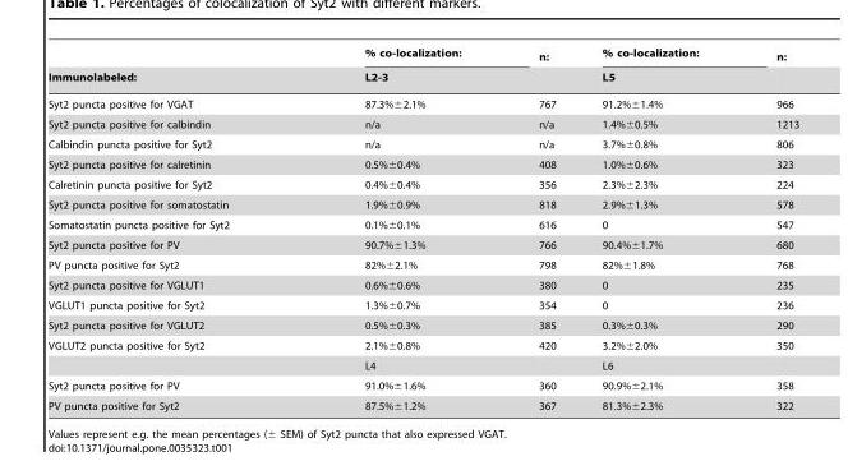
<table><thead><tr><td rowspan="2">Immunolabeled:</td><td rowspan="2">% co-localization: L2-3</td><td rowspan="2">n:</td><td rowspan="2">% co-localization: L5</td><td rowspan="2">n:</td></tr><tr></tr></thead><tbody><tr><td>Syt2 puncta positive for VGAT</td><td>87.3%±2.1%</td><td>767</td><td>91.2%±1.4%</td><td>966</td></tr><tr><td>Syt2 puncta positive for calbindin</td><td>n/a</td><td>n/a</td><td>1.4%±0.5%</td><td>1213</td></tr><tr><td>Calbindin puncta positive for Syt2</td><td>n/a</td><td>n/a</td><td>3.7%±0.8%</td><td>806</td></tr><tr><td>Syt2 puncta positive for calretinin</td><td>0.5%±0.4%</td><td>408</td><td>1.0%±0.6%</td><td>323</td></tr><tr><td>Calretinin puncta positive for Syt2</td><td>0.4%±0.4%</td><td>356</td><td>2.3%±2.3%</td><td>224</td></tr><tr><td>Syt2 puncta positive for somatostatin</td><td>1.9%±0.9%</td><td>818</td><td>2.9%±1.3%</td><td>578</td></tr><tr><td>Somatostatin puncta positive for Syt2</td><td>0.1%±0.1%</td><td>616</td><td>0</td><td>547</td></tr><tr><td>Syt2 puncta positive for PV</td><td>90.7%±1.3%</td><td>766</td><td>90.4%±1.7%</td><td>680</td></tr><tr><td>PV puncta positive for Syt2</td><td>82%±2.1%</td><td>798</td><td>82%±1.8%</td><td>768</td></tr><tr><td>Syt2 puncta positive for VGLUT1</td><td>0.6%±0.6%</td><td>380</td><td>0</td><td>235</td></tr><tr><td>VGLUT1 puncta positive for Syt2</td><td>1.3%±0.7%</td><td>354</td><td>0</td><td>236</td></tr><tr><td>Syt2 puncta positive for VGLUT2</td><td>0.5%±0.3%</td><td>385</td><td>0.3%±0.3%</td><td>290</td></tr><tr><td rowspan="2">VGLUT2 puncta positive for Syt2</td><td>2.1%±0.8%</td><td>420</td><td>3.2%±2.0%</td><td>350</td></tr><tr><td>L4</td><td></td><td>L6</td><td></td></tr><tr><td>Syt2 puncta positive for PV</td><td>91.0%±1.6%</td><td>360</td><td>90.9%±2.1%</td><td>358</td></tr><tr><td>PV puncta positive for Syt2</td><td>87.5%±1.2%</td><td>367</td><td>81.3%±2.3%</td><td>322</td></tr></tbody></table>